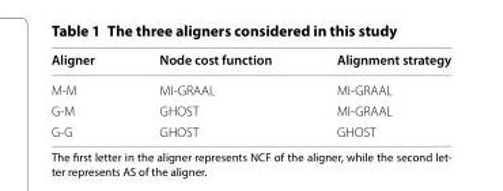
<table><thead><tr><td>Aligner</td><td>Node cost function</td><td>Alignment strategy</td></tr></thead><tbody><tr><td>M-M</td><td>MI-GRAAL</td><td>MI-GRAAL</td></tr><tr><td>G-M</td><td>GHOST</td><td>MI-GRAAL</td></tr><tr><td>G-G</td><td>GHOST</td><td>GHOST</td></tr></tbody></table>